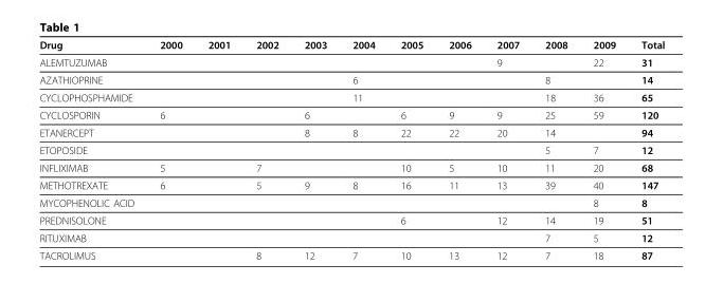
<table><thead><tr><td>Drug</td><td>2000</td><td>2001</td><td>2002</td><td>2003</td><td>2004</td><td>2005</td><td>2006</td><td>2007</td><td>2008</td><td>2009</td><td>Total</td></tr></thead><tbody><tr><td>ALEMTUZUMAB</td><td></td><td></td><td></td><td></td><td></td><td></td><td></td><td>9</td><td></td><td>22</td><td>31</td></tr><tr><td>AZATHIOPRINE</td><td></td><td></td><td></td><td></td><td>6</td><td></td><td></td><td></td><td>8</td><td></td><td>14</td></tr><tr><td>CYCLOPHOSPHAMIDE</td><td></td><td></td><td></td><td></td><td>11</td><td></td><td></td><td></td><td>18</td><td>36</td><td>65</td></tr><tr><td>CYCLOSPORIN</td><td>6</td><td></td><td></td><td>6</td><td></td><td>6</td><td>9</td><td>9</td><td>25</td><td>59</td><td>120</td></tr><tr><td>ETANERCEPT</td><td></td><td></td><td></td><td>8</td><td>8</td><td>22</td><td>22</td><td>20</td><td>14</td><td></td><td>94</td></tr><tr><td>ETOPOSIDE</td><td></td><td></td><td></td><td></td><td></td><td></td><td></td><td></td><td>5</td><td>7</td><td>12</td></tr><tr><td>INFLIXIMAB</td><td>5</td><td></td><td>7</td><td></td><td></td><td>10</td><td>5</td><td>10</td><td>11</td><td>20</td><td>68</td></tr><tr><td>METHOTREXATE</td><td>6</td><td></td><td>5</td><td>9</td><td>8</td><td>16</td><td>11</td><td>13</td><td>39</td><td>40</td><td>147</td></tr><tr><td>MYCOPHENOLIC ACID</td><td></td><td></td><td></td><td></td><td></td><td></td><td></td><td></td><td></td><td>8</td><td>8</td></tr><tr><td>PREDNISOLONE</td><td></td><td></td><td></td><td></td><td></td><td>6</td><td></td><td>12</td><td>14</td><td>19</td><td>51</td></tr><tr><td>RITUXIMAB</td><td></td><td></td><td></td><td></td><td></td><td></td><td></td><td></td><td>7</td><td>5</td><td>12</td></tr><tr><td>TACROLIMUS</td><td></td><td></td><td>8</td><td>12</td><td>7</td><td>10</td><td>13</td><td>12</td><td>7</td><td>18</td><td>87</td></tr></tbody></table>